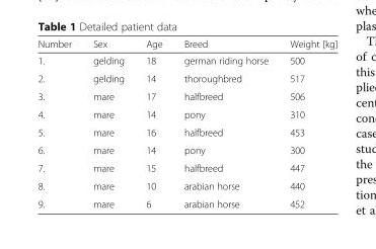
<table><thead><tr><td>Number</td><td>Sex</td><td>Age</td><td>Breed</td><td>Weight [kg]</td></tr></thead><tbody><tr><td>1.</td><td>gelding</td><td>18</td><td>german riding horse</td><td>500</td></tr><tr><td>2.</td><td>gelding</td><td>14</td><td>thoroughbred</td><td>517</td></tr><tr><td>3.</td><td>mare</td><td>17</td><td>halfbreed</td><td>506</td></tr><tr><td>4.</td><td>mare</td><td>14</td><td>pony</td><td>310</td></tr><tr><td>5.</td><td>mare</td><td>16</td><td>halfbreed</td><td>453</td></tr><tr><td>6.</td><td>mare</td><td>14</td><td>pony</td><td>300</td></tr><tr><td>7.</td><td>mare</td><td>15</td><td>halfbreed</td><td>447</td></tr><tr><td>8.</td><td>mare</td><td>10</td><td>arabian horse</td><td>440</td></tr><tr><td>9.</td><td>mare</td><td>6</td><td>arabian horse</td><td>452</td></tr></tbody></table>